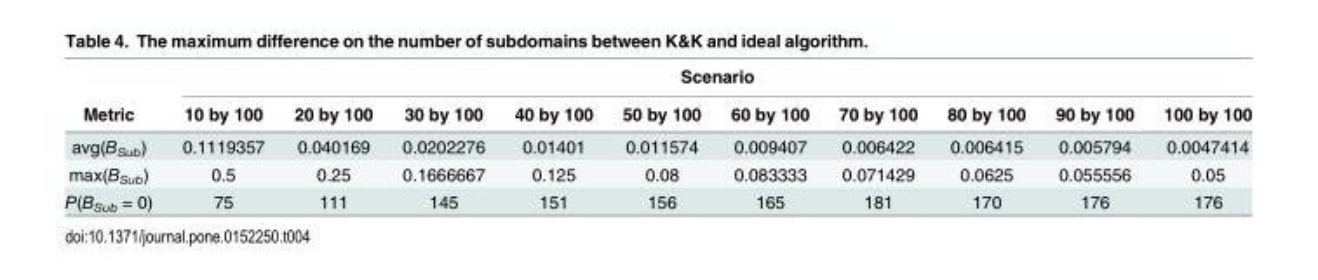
<table><thead><tr><td rowspan="2">Metric</td><td colspan="10">Scenario</td></tr><tr><td>10 by 100</td><td>20 by 100</td><td>30 by 100</td><td>40 by 100</td><td>50 by 100</td><td>60 by 100</td><td>70 by 100</td><td>80 by 100</td><td>90 by 100</td><td>100 by 100</td></tr></thead><tbody><tr><td>avg(B<sub>Sub</sub>)</td><td>0.1119357</td><td>0.040169</td><td>0.0202276</td><td>0.01401</td><td>0.011574</td><td>0.009407</td><td>0.006422</td><td>0.006415</td><td>0.005794</td><td>0.0047414</td></tr><tr><td>max(B<sub>Sub</sub>)</td><td>0.5</td><td>0.25</td><td>0.1666667</td><td>0.125</td><td>0.08</td><td>0.083333</td><td>0.071429</td><td>0.0625</td><td>0.055556</td><td>0.05</td></tr><tr><td>P(B<sub>Sub</sub> = 0)</td><td>75</td><td>111</td><td>145</td><td>151</td><td>156</td><td>165</td><td>181</td><td>170</td><td>176</td><td>176</td></tr></tbody></table>